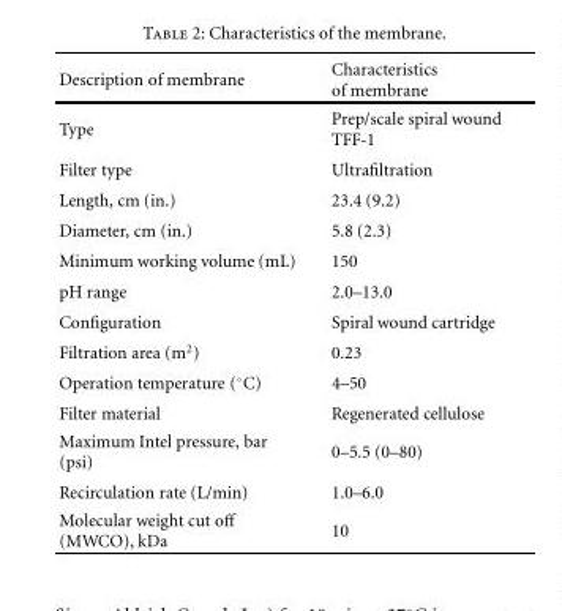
<table><thead><tr><td>Description of membrane</td><td>Characteristics of membrane</td></tr></thead><tbody><tr><td>Type</td><td>Prep/scale spiral wound TFF-1</td></tr><tr><td>Filter type</td><td>Ultrafiltration</td></tr><tr><td>Length, cm (in.)</td><td>23.4 (9.2)</td></tr><tr><td>Diameter, cm (in.)</td><td>5.8 (2.3)</td></tr><tr><td>Minimum working volume (mL)</td><td>150</td></tr><tr><td>pH range</td><td>2.0–13.0</td></tr><tr><td>Configuration</td><td>Spiral wound cartridge</td></tr><tr><td>Filtration area (m<sup>2</sup>)</td><td>0.23</td></tr><tr><td>Operation temperature (◦C)</td><td>4–50</td></tr><tr><td>Filter material</td><td>Regenerated cellulose</td></tr><tr><td>Maximum Intel pressure, bar (psi)</td><td>0–5.5 (0–80)</td></tr><tr><td>Recirculation rate (L/min)</td><td>1.0–6.0</td></tr><tr><td>Molecular weight cut off (MWCO), kDa</td><td>10</td></tr></tbody></table>